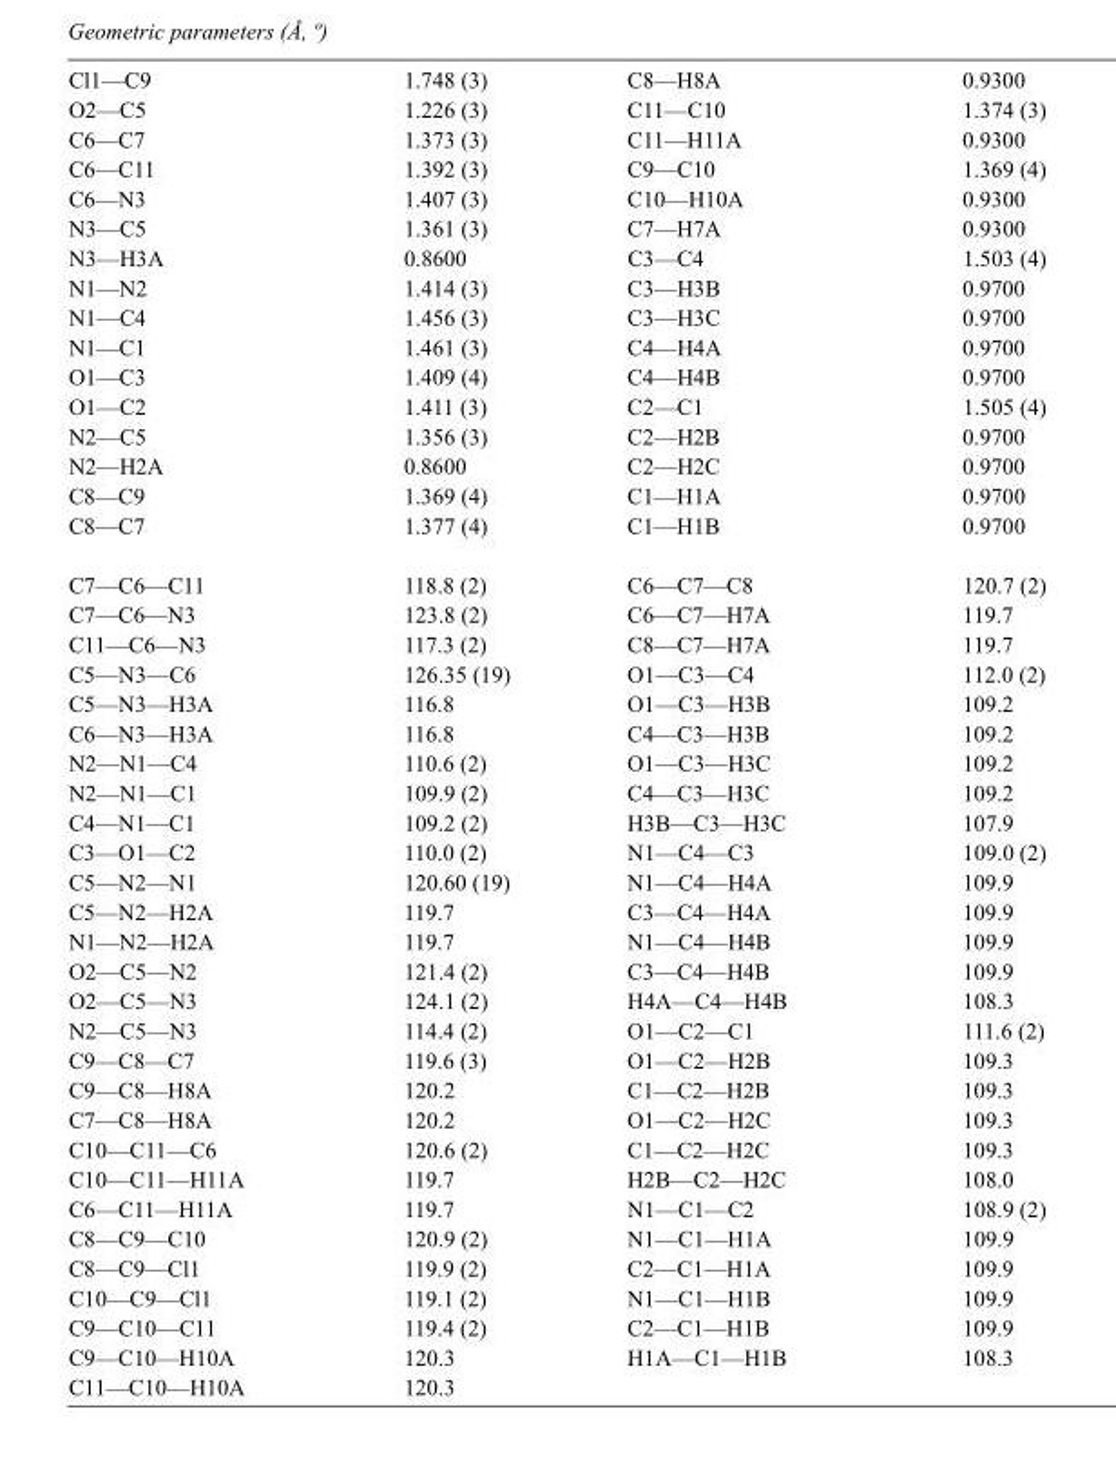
<table><tbody><tr><td>Cl1—C9</td><td>1.748 (3)</td><td>C8—H8A</td><td>0.9300</td></tr><tr><td>O2—C5</td><td>1.226 (3)</td><td>C11—C10</td><td>1.374 (3)</td></tr><tr><td>C6—C7</td><td>1.373 (3)</td><td>C11—H11A</td><td>0.9300</td></tr><tr><td>C6—C11</td><td>1.392 (3)</td><td>C9—C10</td><td>1.369 (4)</td></tr><tr><td>C6—N3</td><td>1.407 (3)</td><td>C10—H10A</td><td>0.9300</td></tr><tr><td>N3—C5</td><td>1.361 (3)</td><td>C7—H7A</td><td>0.9300</td></tr><tr><td>N3—H3A</td><td>0.8600</td><td>C3—C4</td><td>1.503 (4)</td></tr><tr><td>N1—N2</td><td>1.414 (3)</td><td>C3—H3B</td><td>0.9700</td></tr><tr><td>N1—C4</td><td>1.456 (3)</td><td>C3—H3C</td><td>0.9700</td></tr><tr><td>N1—C1</td><td>1.461 (3)</td><td>C4—H4A</td><td>0.9700</td></tr><tr><td>O1—C3</td><td>1.409 (4)</td><td>C4—H4B</td><td>0.9700</td></tr><tr><td>O1—C2</td><td>1.411 (3)</td><td>C2—C1</td><td>1.505 (4)</td></tr><tr><td>N2—C5</td><td>1.356 (3)</td><td>C2—H2B</td><td>0.9700</td></tr><tr><td>N2—H2A</td><td>0.8600</td><td>C2—H2C</td><td>0.9700</td></tr><tr><td>C8—C9</td><td>1.369 (4)</td><td>C1—H1A</td><td>0.9700</td></tr><tr><td>C8—C7</td><td>1.377 (4)</td><td>C1—H1B</td><td>0.9700</td></tr><tr><td>C7—C6—C11</td><td>118.8 (2)</td><td>C6—C7—C8</td><td>120.7 (2)</td></tr><tr><td>C7—C6—N3</td><td>123.8 (2)</td><td>C6—C7—H7A</td><td>119.7</td></tr><tr><td>C11—C6—N3</td><td>117.3 (2)</td><td>C8—C7—H7A</td><td>119.7</td></tr><tr><td>C5—N3—C6</td><td>126.35 (19)</td><td>O1—C3—C4</td><td>112.0 (2)</td></tr><tr><td>C5—N3—H3A</td><td>116.8</td><td>O1—C3—H3B</td><td>109.2</td></tr><tr><td>C6—N3—H3A</td><td>116.8</td><td>C4—C3—H3B</td><td>109.2</td></tr><tr><td>N2—N1—C4</td><td>110.6 (2)</td><td>O1—C3—H3C</td><td>109.2</td></tr><tr><td>N2—N1—C1</td><td>109.9 (2)</td><td>C4—C3—H3C</td><td>109.2</td></tr><tr><td>C4—N1—C1</td><td>109.2 (2)</td><td>H3B—C3—H3C</td><td>107.9</td></tr><tr><td>C3—O1—C2</td><td>110.0 (2)</td><td>N1—C4—C3</td><td>109.0 (2)</td></tr><tr><td>C5—N2—N1</td><td>120.60 (19)</td><td>N1—C4—H4A</td><td>109.9</td></tr><tr><td>C5—N2—H2A</td><td>119.7</td><td>C3—C4—H4A</td><td>109.9</td></tr><tr><td>N1—N2—H2A</td><td>119.7</td><td>N1—C4—H4B</td><td>109.9</td></tr><tr><td>O2—C5—N2</td><td>121.4 (2)</td><td>C3—C4—H4B</td><td>109.9</td></tr><tr><td>O2—C5—N3</td><td>124.1 (2)</td><td>H4A—C4—H4B</td><td>108.3</td></tr><tr><td>N2—C5—N3</td><td>114.4 (2)</td><td>O1—C2—C1</td><td>111.6 (2)</td></tr><tr><td>C9—C8—C7</td><td>119.6 (3)</td><td>O1—C2—H2B</td><td>109.3</td></tr><tr><td>C9—C8—H8A</td><td>120.2</td><td>C1—C2—H2B</td><td>109.3</td></tr><tr><td>C7—C8—H8A</td><td>120.2</td><td>O1—C2—H2C</td><td>109.3</td></tr><tr><td>C10—C11—C6</td><td>120.6 (2)</td><td>C1—C2—H2C</td><td>109.3</td></tr><tr><td>C10—C11—H11A</td><td>119.7</td><td>H2B—C2—H2C</td><td>108.0</td></tr><tr><td>C6—C11—H11A</td><td>119.7</td><td>N1—C1—C2</td><td>108.9 (2)</td></tr><tr><td>C8—C9—C10</td><td>120.9 (2)</td><td>N1—C1—H1A</td><td>109.9</td></tr><tr><td>C8—C9—Cl1</td><td>119.9 (2)</td><td>C2—C1—H1A</td><td>109.9</td></tr><tr><td>C10—C9—Cl1</td><td>119.1 (2)</td><td>N1—C1—H1B</td><td>109.9</td></tr><tr><td>C9—C10—C11</td><td>119.4 (2)</td><td>C2—C1—H1B</td><td>109.9</td></tr><tr><td>C9—C10—H10A</td><td>120.3</td><td>H1A—C1—H1B</td><td>108.3</td></tr><tr><td>C11—C10—H10A</td><td>120.3</td><td></td><td></td></tr></tbody></table>